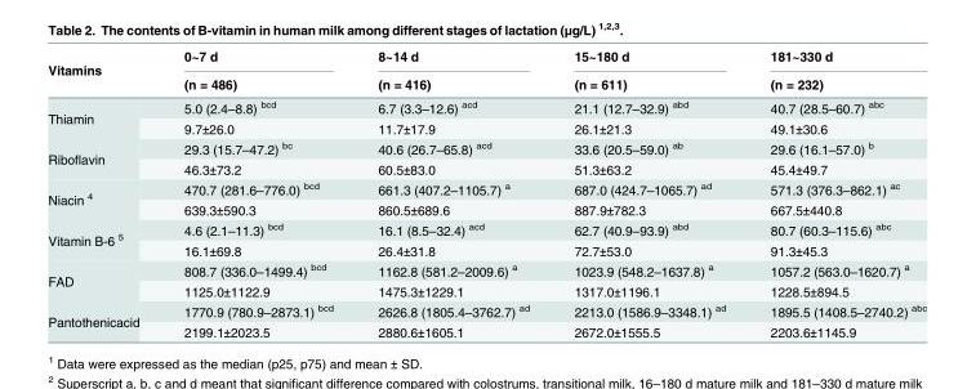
<table><thead><tr><td rowspan="2">Vitamins</td><td rowspan="2">0~7 d (n = 486)</td><td rowspan="2">8~14 d (n = 416)</td><td rowspan="2">15~180 d (n = 611)</td><td rowspan="2">181~330 d (n = 232)</td></tr><tr></tr></thead><tbody><tr><td rowspan="2">Thiamin</td><td>5.0 (2.4–8.8) <sup>bcd</sup></td><td>6.7 (3.3–12.6) <sup>acd</sup></td><td>21.1 (12.7–32.9) <sup>abd</sup></td><td>40.7 (28.5–60.7) <sup>abc</sup></td></tr><tr><td>9.7±26.0</td><td>11.7±17.9</td><td>26.1±21.3</td><td>49.1±30.6</td></tr><tr><td rowspan="2">Riboflavin</td><td>29.3 (15.7–47.2) <sup>bc</sup></td><td>40.6 (26.7–65.8) <sup>acd</sup></td><td>33.6 (20.5–59.0) <sup>ab</sup></td><td>29.6 (16.1–57.0) <sup>b</sup></td></tr><tr><td>46.3±73.2</td><td>60.5±83.0</td><td>51.3±63.2</td><td>45.4±49.7</td></tr><tr><td rowspan="2">Niacin <sup>4</sup></td><td>470.7 (281.6–776.0) <sup>bcd</sup></td><td>661.3 (407.2–1105.7) <sup>a</sup></td><td>687.0 (424.7–1065.7) <sup>ad</sup></td><td>571.3 (376.3–862.1) <sup>ac</sup></td></tr><tr><td>639.3±590.3</td><td>860.5±689.6</td><td>887.9±782.3</td><td>667.5±440.8</td></tr><tr><td rowspan="2">Vitamin B-6 <sup>5</sup></td><td>4.6 (2.1–11.3) <sup>bcd</sup></td><td>16.1 (8.5–32.4) <sup>acd</sup></td><td>62.7 (40.9–93.9) <sup>abd</sup></td><td>80.7 (60.3–115.6) <sup>abc</sup></td></tr><tr><td>16.1±69.8</td><td>26.4±31.8</td><td>72.7±53.0</td><td>91.3±45.3</td></tr><tr><td rowspan="2">FAD</td><td>808.7 (336.0–1499.4) <sup>bcd</sup></td><td>1162.8 (581.2–2009.6) <sup>a</sup></td><td>1023.9 (548.2–1637.8) <sup>a</sup></td><td>1057.2 (563.0–1620.7) <sup>a</sup></td></tr><tr><td>1125.0±1122.9</td><td>1475.3±1229.1</td><td>1317.0±1196.1</td><td>1228.5±894.5</td></tr><tr><td rowspan="2">Pantothenicacid</td><td>1770.9 (780.9–2873.1) <sup>bcd</sup></td><td>2626.8 (1805.4–3762.7) <sup>ad</sup></td><td>2213.0 (1586.9–3348.1) <sup>ad</sup></td><td>1895.5 (1408.5–2740.2) <sup>abc</sup></td></tr><tr><td>2199.1±2023.5</td><td>2880.6±1605.1</td><td>2672.0±1555.5</td><td>2203.6±1145.9</td></tr></tbody></table>